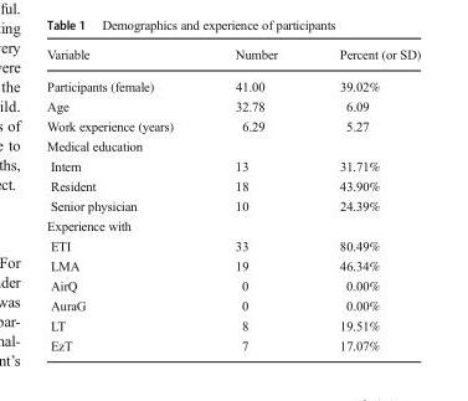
<table><thead><tr><td>Variable</td><td>Number</td><td>Percent (or SD)</td></tr></thead><tbody><tr><td>Participants (female)</td><td>41.00</td><td>39.02%</td></tr><tr><td>Age</td><td>32.78</td><td>6.09</td></tr><tr><td>Work experience (years)</td><td>6.29</td><td>5.27</td></tr><tr><td colspan="3">Medical education</td></tr><tr><td>Intern</td><td>13</td><td>31.71%</td></tr><tr><td>Resident</td><td>18</td><td>43.90%</td></tr><tr><td>Senior physician</td><td>10</td><td>24.39%</td></tr><tr><td colspan="3">Experience with</td></tr><tr><td>ETI</td><td>33</td><td>80.49%</td></tr><tr><td>LMA</td><td>19</td><td>46.34%</td></tr><tr><td>AirQ</td><td>0</td><td>0.00%</td></tr><tr><td>AuraG</td><td>0</td><td>0.00%</td></tr><tr><td>LT</td><td>8</td><td>19.51%</td></tr><tr><td>EzT</td><td>7</td><td>17.07%</td></tr></tbody></table>